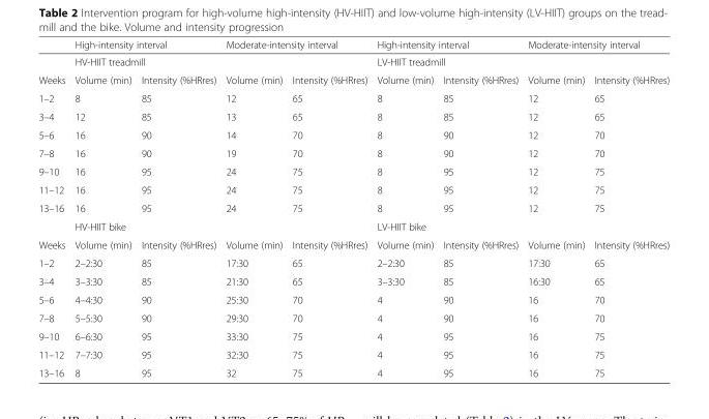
<table><thead><tr><td rowspan="3">Weeks</td><td colspan="2">High-intensity interval</td><td colspan="2">Moderate-intensity interval</td><td colspan="2">High-intensity interval</td><td colspan="2">Moderate-intensity interval</td></tr><tr><td colspan="4">HV-HIIT treadmill</td><td colspan="4">LV-HIIT treadmill</td></tr><tr><td>Volume (min)</td><td>Intensity (%HRres)</td><td>Volume (min)</td><td>Intensity (%HRres)</td><td>Volume (min)</td><td>Intensity (%HRres)</td><td>Volume (min)</td><td>Intensity (%HRres)</td></tr></thead><tbody><tr><td>1–2</td><td>8</td><td>85</td><td>12</td><td>65</td><td>8</td><td>85</td><td>12</td><td>65</td></tr><tr><td>3–4</td><td>12</td><td>85</td><td>13</td><td>65</td><td>8</td><td>85</td><td>12</td><td>65</td></tr><tr><td>5–6</td><td>16</td><td>90</td><td>14</td><td>70</td><td>8</td><td>90</td><td>12</td><td>70</td></tr><tr><td>7–8</td><td>16</td><td>90</td><td>19</td><td>70</td><td>8</td><td>90</td><td>12</td><td>70</td></tr><tr><td>9–10</td><td>16</td><td>95</td><td>24</td><td>75</td><td>8</td><td>95</td><td>12</td><td>75</td></tr><tr><td>11–12</td><td>16</td><td>95</td><td>24</td><td>75</td><td>8</td><td>95</td><td>12</td><td>75</td></tr><tr><td rowspan="2">13–16</td><td>16</td><td>95</td><td>24</td><td>75</td><td>8</td><td>95</td><td>12</td><td>75</td></tr><tr><td colspan="4">HV-HIIT bike</td><td colspan="4">LV-HIIT bike</td></tr><tr><td>Weeks</td><td>Volume (min)</td><td>Intensity (%HRres)</td><td>Volume (min)</td><td>Intensity (%HRres)</td><td>Volume (min)</td><td>Intensity (%HRres)</td><td>Volume (min)</td><td>Intensity (%HRres)</td></tr><tr><td>1–2</td><td>2–2:30</td><td>85</td><td>17:30</td><td>65</td><td>2–2:30</td><td>85</td><td>17:30</td><td>65</td></tr><tr><td>3–4</td><td>3–3:30</td><td>85</td><td>21:30</td><td>65</td><td>3–3:30</td><td>85</td><td>16:30</td><td>65</td></tr><tr><td>5–6</td><td>4–4:30</td><td>90</td><td>25:30</td><td>70</td><td>4</td><td>90</td><td>16</td><td>70</td></tr><tr><td>7–8</td><td>5–5:30</td><td>90</td><td>29:30</td><td>70</td><td>4</td><td>90</td><td>16</td><td>70</td></tr><tr><td>9–10</td><td>6–6:30</td><td>95</td><td>33:30</td><td>75</td><td>4</td><td>95</td><td>16</td><td>75</td></tr><tr><td>11–12</td><td>7–7:30</td><td>95</td><td>32:30</td><td>75</td><td>4</td><td>95</td><td>16</td><td>75</td></tr><tr><td>13–16</td><td>8</td><td>95</td><td>32</td><td>75</td><td>4</td><td>95</td><td>16</td><td>75</td></tr></tbody></table>